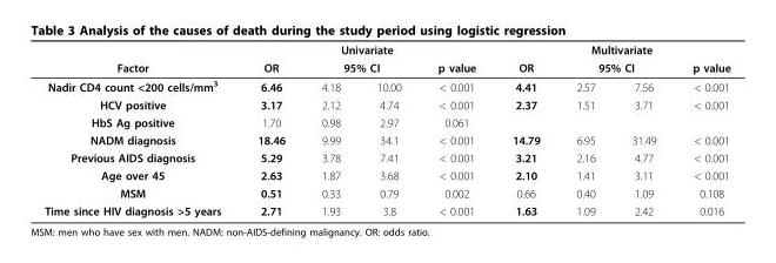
<table><thead><tr><td rowspan="3">Factor Nadir CD4 count &lt;200 cells/mm<sup>3</sup></td><td colspan="4">Univariate</td><td colspan="4">Multivariate</td></tr><tr><td rowspan="2">OR 6.46</td><td colspan="2">95% CI</td><td rowspan="2">p value &lt; 0.001</td><td rowspan="2">OR 4.41</td><td colspan="2">95% CI</td><td rowspan="2">p value &lt; 0.001</td></tr><tr><td>4.18</td><td>10.00</td><td>2.57</td><td>7.56</td></tr></thead><tbody><tr><td>HCV positive</td><td>3.17</td><td>2.12</td><td>4.74</td><td>&lt; 0.001</td><td>2.37</td><td>1.51</td><td>3.71</td><td>&lt; 0.001</td></tr><tr><td>HbS Ag positive</td><td>1.70</td><td>0.98</td><td>2.97</td><td>0.061</td><td></td><td></td><td></td><td></td></tr><tr><td>NADM diagnosis</td><td>18.46</td><td>9.99</td><td>34.1</td><td>&lt; 0.001</td><td>14.79</td><td>6.95</td><td>31.49</td><td>&lt; 0.001</td></tr><tr><td>Previous AIDS diagnosis</td><td>5.29</td><td>3.78</td><td>7.41</td><td>&lt; 0.001</td><td>3.21</td><td>2.16</td><td>4.77</td><td>&lt; 0.001</td></tr><tr><td>Age over 45</td><td>2.63</td><td>1.87</td><td>3.68</td><td>&lt; 0.001</td><td>2.10</td><td>1.41</td><td>3.11</td><td>&lt; 0.001</td></tr><tr><td>MSM</td><td>0.51</td><td>0.33</td><td>0.79</td><td>0.002</td><td>0.66</td><td>0.40</td><td>1.09</td><td>0.108</td></tr><tr><td>Time since HIV diagnosis &gt;5 years</td><td>2.71</td><td>1.93</td><td>3.8</td><td>&lt; 0.001</td><td>1.63</td><td>1.09</td><td>2.42</td><td>0.016</td></tr></tbody></table>